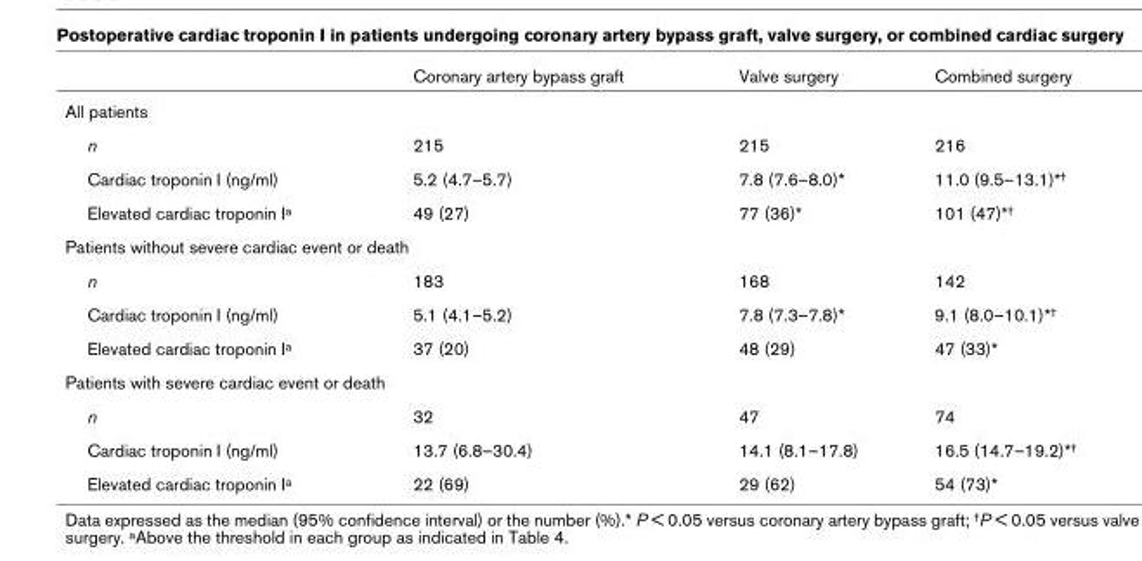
<table><thead><tr><td></td><td>Coronary artery bypass graft</td><td>Valve surgery</td><td>Combined surgery</td></tr></thead><tbody><tr><td colspan="4">All patients</td></tr><tr><td>n</td><td>215</td><td>215</td><td>216</td></tr><tr><td>Cardiac troponin I (ng/ml)</td><td>5.2 (4.7–5.7)</td><td>7.8 (7.6–8.0)*</td><td>11.0 (9.5–13.1)*<sup>†</sup></td></tr><tr><td>Elevated cardiac troponin I<sup>a</sup></td><td>49 (27)</td><td>77 (36)*</td><td>101 (47)*<sup>†</sup></td></tr><tr><td colspan="4">Patients without severe cardiac event or death</td></tr><tr><td>n</td><td>183</td><td>168</td><td>142</td></tr><tr><td>Cardiac troponin I (ng/ml)</td><td>5.1 (4.1–5.2)</td><td>7.8 (7.3–7.8)*</td><td>9.1 (8.0–10.1)*<sup>†</sup></td></tr><tr><td>Elevated cardiac troponin I<sup>a</sup></td><td>37 (20)</td><td>48 (29)</td><td>47 (33)*</td></tr><tr><td colspan="4">Patients with severe cardiac event or death</td></tr><tr><td>n</td><td>32</td><td>47</td><td>74</td></tr><tr><td>Cardiac troponin I (ng/ml)</td><td>13.7 (6.8–30.4)</td><td>14.1 (8.1–17.8)</td><td>16.5 (14.7–19.2)*<sup>†</sup></td></tr><tr><td>Elevated cardiac troponin I<sup>a</sup></td><td>22 (69)</td><td>29 (62)</td><td>54 (73)*</td></tr></tbody></table>